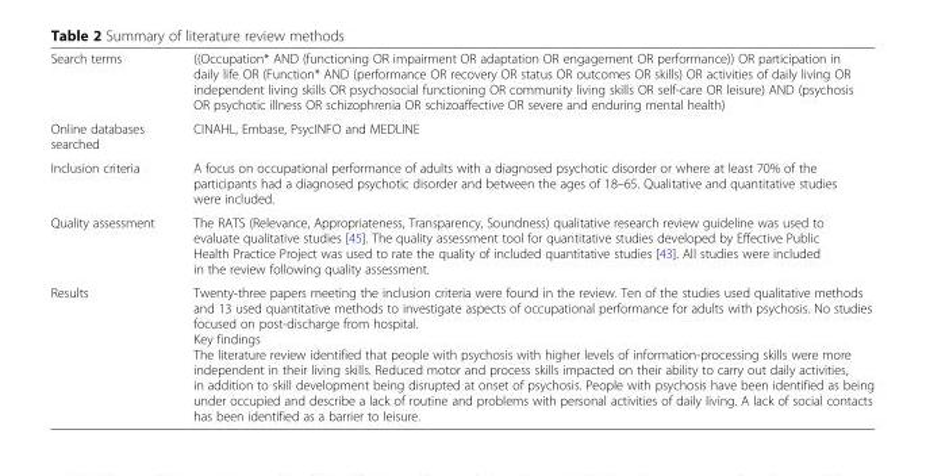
<table><tbody><tr><td>Search terms</td><td>((Occupation* AND (functioning OR impairment OR adaptation OR engagement OR performance)) OR participation in daily life OR (Function* AND (performance OR recovery OR status OR outcomes OR skills) OR activities of daily living OR independent living skills OR psychosocial functioning OR community living skills OR self-care OR leisure) AND (psychosis OR psychotic illness OR schizophrenia OR schizoaffective OR severe and enduring mental health)</td></tr><tr><td>Online databases searched</td><td>CINAHL, Embase, PsycINFO and MEDLINE</td></tr><tr><td>Inclusion criteria</td><td>A focus on occupational performance of adults with a diagnosed psychotic disorder or where at least 70% of the participants had a diagnosed psychotic disorder and between the ages of 18–65. Qualitative and quantitative studies were included.</td></tr><tr><td>Quality assessment</td><td>The RATS (Relevance, Appropriateness, Transparency, Soundness) qualitative research review guideline was used to evaluate qualitative studies [45]. The quality assessment tool for quantitative studies developed by Effective Public Health Practice Project was used to rate the quality of included quantitative studies [43]. All studies were included in the review following quality assessment.</td></tr><tr><td>Results</td><td>Twenty-three papers meeting the inclusion criteria were found in the review. Ten of the studies used qualitative methods and 13 used quantitative methods to investigate aspects of occupational performance for adults with psychosis. No studies focused on post-discharge from hospital. Key findings The literature review identified that people with psychosis with higher levels of information-processing skills were more independent in their living skills. Reduced motor and process skills impacted on their ability to carry out daily activities, in addition to skill development being disrupted at onset of psychosis. People with psychosis have been identified as being under occupied and describe a lack of routine and problems with personal activities of daily living. A lack of social contacts has been identified as a barrier to leisure.</td></tr></tbody></table>